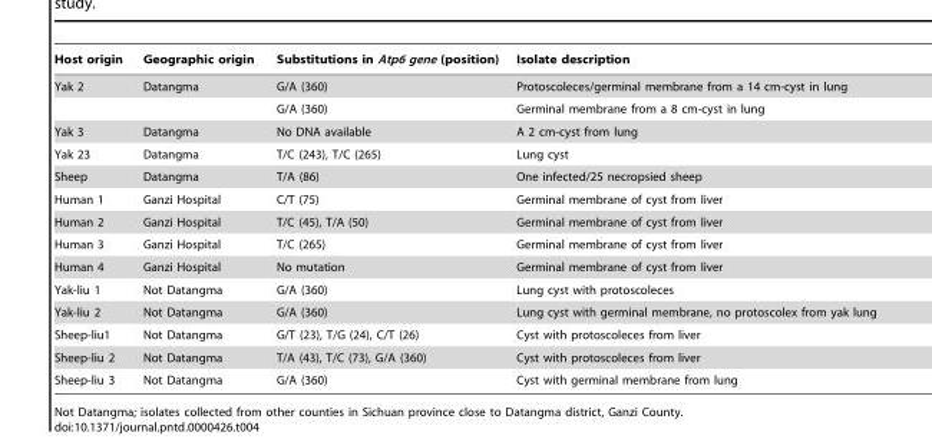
<table><thead><tr><td>Host origin</td><td>Geographic origin</td><td>Substitutions in Atp6 gene (position)</td><td>Isolate description</td></tr></thead><tbody><tr><td rowspan="2">Yak 2</td><td>Datangma</td><td>G/A (360)</td><td>Protoscoleces/germinal membrane from a 14 cm-cyst in lung</td></tr><tr><td></td><td>G/A (360)</td><td>Germinal membrane from a 8 cm-cyst in lung</td></tr><tr><td>Yak 3</td><td>Datangma</td><td>No DNA available</td><td>A 2 cm-cyst from lung</td></tr><tr><td>Yak 23</td><td>Datangma</td><td>T/C (243), T/C (265)</td><td>Lung cyst</td></tr><tr><td>Sheep</td><td>Datangma</td><td>T/A (86)</td><td>One infected/25 necropsied sheep</td></tr><tr><td>Human 1</td><td>Ganzi Hospital</td><td>C/T (75)</td><td>Germinal membrane of cyst from liver</td></tr><tr><td>Human 2</td><td>Ganzi Hospital</td><td>T/C (45), T/A (50)</td><td>Germinal membrane of cyst from liver</td></tr><tr><td>Human 3</td><td>Ganzi Hospital</td><td>T/C (265)</td><td>Germinal membrane of cyst from liver</td></tr><tr><td>Human 4</td><td>Ganzi Hospital</td><td>No mutation</td><td>Germinal membrane of cyst from liver</td></tr><tr><td>Yak-liu 1</td><td>Not Datangma</td><td>G/A (360)</td><td>Lung cyst with protoscoleces</td></tr><tr><td>Yak-liu 2</td><td>Not Datangma</td><td>G/A (360)</td><td>Lung cyst with germinal membrane, no protoscolex from yak lung</td></tr><tr><td>Sheep-liu1</td><td>Not Datangma</td><td>G/T (23), T/G (24), C/T (26)</td><td>Cyst with protoscoleces from liver</td></tr><tr><td>Sheep-liu 2</td><td>Not Datangma</td><td>T/A (43), T/C (73), G/A (360)</td><td>Cyst with protoscoleces from liver</td></tr><tr><td>Sheep-liu 3</td><td>Not Datangma</td><td>G/A (360)</td><td>Cyst with germinal membrane from lung</td></tr></tbody></table>